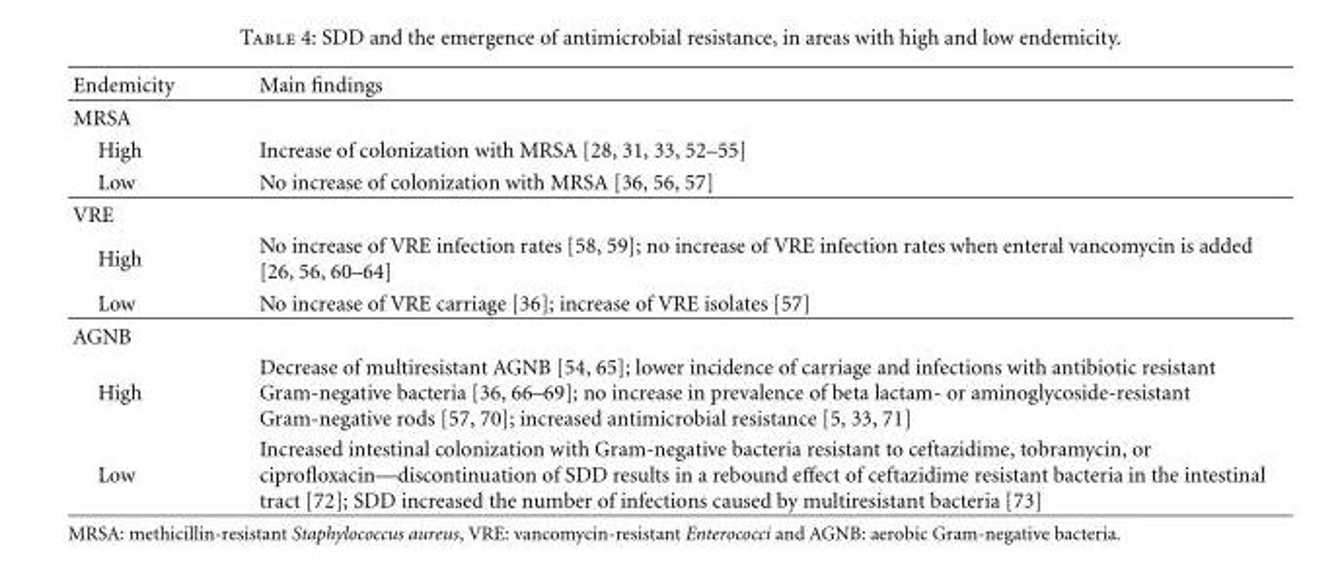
<table><thead><tr><td>Endemicity</td><td>Main findings</td></tr></thead><tbody><tr><td colspan="2">MRSA</td></tr><tr><td>High</td><td>Increase of colonization with MRSA [28, 31, 33, 52–55]</td></tr><tr><td>Low</td><td>No increase of colonization with MRSA [36, 56, 57]</td></tr><tr><td colspan="2">VRE</td></tr><tr><td>High</td><td>No increase of VRE infection rates [58, 59]; no increase of VRE infection rates when enteral vancomycin is added [26, 56, 60–64]</td></tr><tr><td>Low</td><td>No increase of VRE carriage [36]; increase of VRE isolates [57]</td></tr><tr><td colspan="2">AGNB</td></tr><tr><td>High</td><td>Decrease of multiresistant AGNB [54, 65]; lower incidence of carriage and infections with antibiotic resistant Gram-negative bacteria [36, 66–69]; no increase in prevalence of beta lactam- or aminoglycoside-resistant Gram-negative rods [57, 70]; increased antimicrobial resistance [5, 33, 71]</td></tr><tr><td>Low</td><td>Increased intestinal colonization with Gram-negative bacteria resistant to ceftazidime, tobramycin, or ciprofloxacin—discontinuation of SDD results in a rebound effect of ceftazidime resistant bacteria in the intestinal tract [72]; SDD increased the number of infections caused by multiresistant bacteria [73]</td></tr></tbody></table>